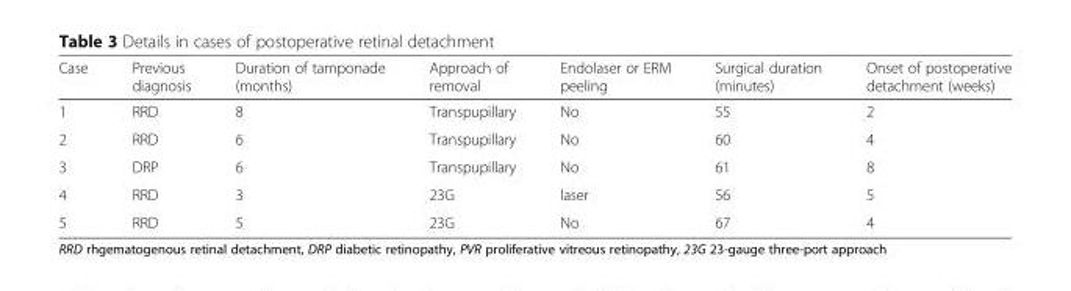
<table><thead><tr><td>Case</td><td>Previous diagnosis</td><td>Duration of tamponade (months)</td><td>Approach of removal</td><td>Endolaser or ERM peeling</td><td>Surgical duration (minutes)</td><td>Onset of postoperative detachment (weeks)</td></tr></thead><tbody><tr><td>1</td><td>RRD</td><td>8</td><td>Transpupillary</td><td>No</td><td>55</td><td>2</td></tr><tr><td>2</td><td>RRD</td><td>6</td><td>Transpupillary</td><td>No</td><td>60</td><td>4</td></tr><tr><td>3</td><td>DRP</td><td>6</td><td>Transpupillary</td><td>No</td><td>61</td><td>8</td></tr><tr><td>4</td><td>RRD</td><td>3</td><td>23G</td><td>laser</td><td>56</td><td>5</td></tr><tr><td>5</td><td>RRD</td><td>5</td><td>23G</td><td>No</td><td>67</td><td>4</td></tr></tbody></table>